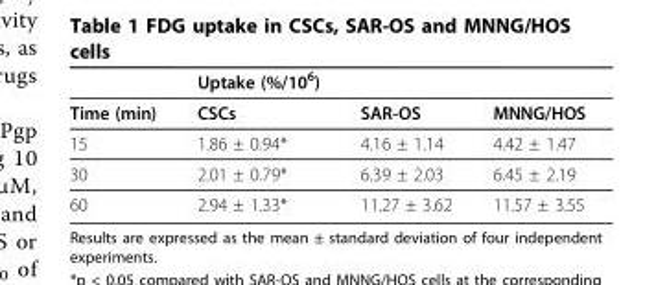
<table><thead><tr><td></td><td>Uptake (%/10<sup>6</sup>)</td><td></td><td></td></tr></thead><tbody><tr><td>Time (min)</td><td>CSCs</td><td>SAR-OS</td><td>MNNG/HOS</td></tr><tr><td>15</td><td>1.86 ± 0.94*</td><td>4.16 ± 1.14</td><td>4.42 ± 1.47</td></tr><tr><td>30</td><td>2.01 ± 0.79*</td><td>6.39 ± 2.03</td><td>6.45 ± 2.19</td></tr><tr><td>60</td><td>2.94 ± 1.33*</td><td>11.27 ± 3.62</td><td>11.57 ± 3.55</td></tr></tbody></table>